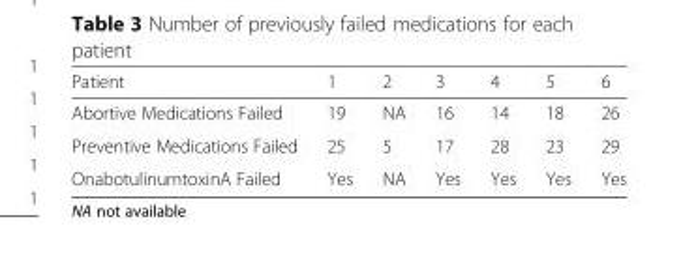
<table><thead><tr><td>Patient</td><td>1</td><td>2</td><td>3</td><td>4</td><td>5</td><td>6</td></tr></thead><tbody><tr><td>Abortive Medications Failed</td><td>19</td><td>NA</td><td>16</td><td>14</td><td>18</td><td>26</td></tr><tr><td>Preventive Medications Failed</td><td>25</td><td>5</td><td>17</td><td>28</td><td>23</td><td>29</td></tr><tr><td>OnabotulinumtoxinA Failed</td><td>Yes</td><td>NA</td><td>Yes</td><td>Yes</td><td>Yes</td><td>Yes</td></tr></tbody></table>